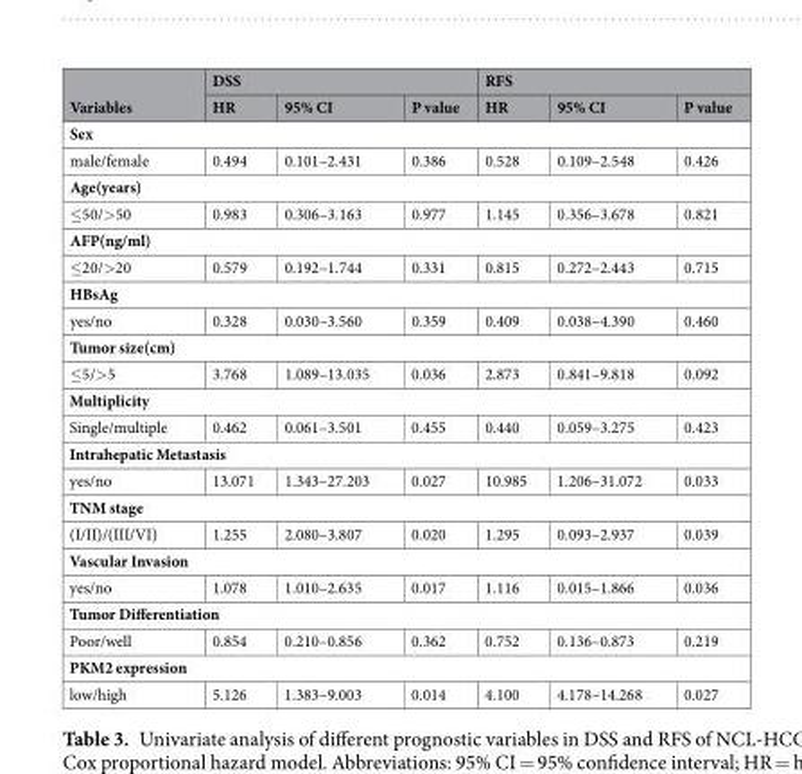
<table><thead><tr><td rowspan="2">Variables</td><td colspan="3">DSS</td><td colspan="3">RFS</td></tr><tr><td>HR</td><td>95% CI</td><td>P value</td><td>HR</td><td>95% CI</td><td>P value</td></tr></thead><tbody><tr><td colspan="7">Sex</td></tr><tr><td>male/female</td><td>0.494</td><td>0.101–2.431</td><td>0.386</td><td>0.528</td><td>0.109–2.548</td><td>0.426</td></tr><tr><td colspan="7">Age(years)</td></tr><tr><td>≤50/&gt;50</td><td>0.983</td><td>0.306–3.163</td><td>0.977</td><td>1.145</td><td>0.356–3.678</td><td>0.821</td></tr><tr><td colspan="7">AFP(ng/ml)</td></tr><tr><td>≤20/&gt;20</td><td>0.579</td><td>0.192–1.744</td><td>0.331</td><td>0.815</td><td>0.272–2.443</td><td>0.715</td></tr><tr><td colspan="7">HBsAg</td></tr><tr><td>yes/no</td><td>0.328</td><td>0.030–3.560</td><td>0.359</td><td>0.409</td><td>0.038–4.390</td><td>0.460</td></tr><tr><td colspan="7">Tumor size(cm)</td></tr><tr><td>≤5/&gt;5</td><td>3.768</td><td>1.089–13.035</td><td>0.036</td><td>2.873</td><td>0.841–9.818</td><td>0.092</td></tr><tr><td colspan="7">Multiplicity</td></tr><tr><td>Single/multiple</td><td>0.462</td><td>0.061–3.501</td><td>0.455</td><td>0.440</td><td>0.059–3.275</td><td>0.423</td></tr><tr><td colspan="7">Intrahepatic Metastasis</td></tr><tr><td>yes/no</td><td>13.071</td><td>1.343–27.203</td><td>0.027</td><td>10.985</td><td>1.206–31.072</td><td>0.033</td></tr><tr><td colspan="7">TNM stage</td></tr><tr><td>(I/II)/(III/VI)</td><td>1.255</td><td>2.080–3.807</td><td>0.020</td><td>1.295</td><td>0.093–2.937</td><td>0.039</td></tr><tr><td colspan="7">Vascular Invasion</td></tr><tr><td>yes/no</td><td>1.078</td><td>1.010–2.635</td><td>0.017</td><td>1.116</td><td>0.015–1.866</td><td>0.036</td></tr><tr><td colspan="7">Tumor Differentiation</td></tr><tr><td>Poor/well</td><td>0.854</td><td>0.210–0.856</td><td>0.362</td><td>0.752</td><td>0.136–0.873</td><td>0.219</td></tr><tr><td colspan="7">PKM2 expression</td></tr><tr><td>low/high</td><td>5.126</td><td>1.383–9.003</td><td>0.014</td><td>4.100</td><td>4.178–14.268</td><td>0.027</td></tr></tbody></table>